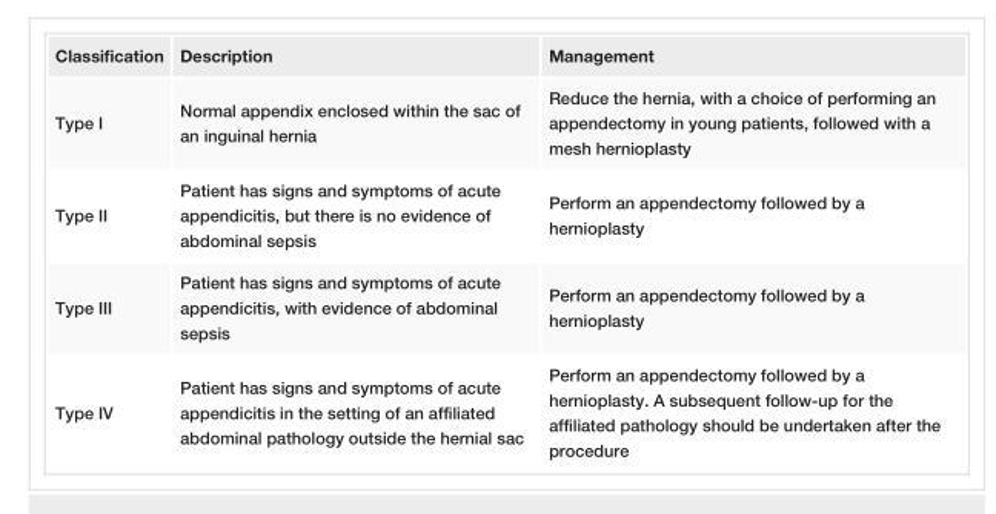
<table><tbody><tr><td>Classification</td><td>Description</td><td>Management</td></tr><tr><td>Type I</td><td>Normal appendix enclosed within the sac of an inguinal hernia</td><td>Reduce the hernia, with a choice of performing an appendectomy in young patients, followed with a mesh hernioplasty</td></tr><tr><td>Type II</td><td>Patient has signs and symptoms of acute appendicitis, but there is no evidence of abdominal sepsis</td><td>Perform an appendectomy followed by a hernioplasty</td></tr><tr><td>Type III</td><td>Patient has signs and symptoms of acute appendicitis, with evidence of abdominal sepsis</td><td>Perform an appendectomy followed by a hernioplasty</td></tr><tr><td>Type IV</td><td>Patient has signs and symptoms of acute appendicitis in the setting of an affiliated abdominal pathology outside the hernial sac</td><td>Perform an appendectomy followed by a hernioplasty. A subsequent follow-up for the affiliated pathology should be undertaken after the procedure</td></tr></tbody></table>